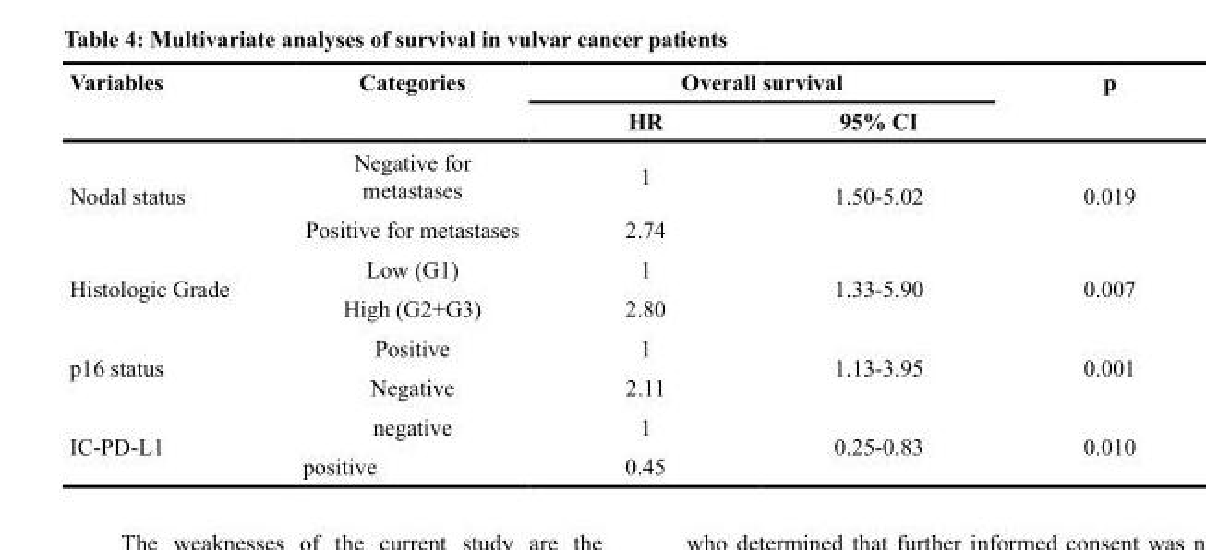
<table><thead><tr><td rowspan="2">Variables</td><td rowspan="2">Categories</td><td colspan="2">Overall survival</td><td rowspan="2">p</td></tr><tr><td>HR</td><td>95% CI</td></tr></thead><tbody><tr><td rowspan="2">Nodal status</td><td>Negative for metastases</td><td>1</td><td rowspan="2">1.50-5.02</td><td rowspan="2">0.019</td></tr><tr><td>Positive for metastases</td><td>2.74</td></tr><tr><td rowspan="2">Histologic Grade</td><td>Low (G1)</td><td>1</td><td rowspan="2">1.33-5.90</td><td rowspan="2">0.007</td></tr><tr><td>High (G2+G3)</td><td>2.80</td></tr><tr><td rowspan="2">p16 status</td><td>Positive</td><td>1</td><td rowspan="2">1.13-3.95</td><td rowspan="2">0.001</td></tr><tr><td>Negative</td><td>2.11</td></tr><tr><td rowspan="2">IC-PD-L1</td><td>negative</td><td>1</td><td rowspan="2">0.25-0.83</td><td rowspan="2">0.010</td></tr><tr><td>positive</td><td>0.45</td></tr></tbody></table>